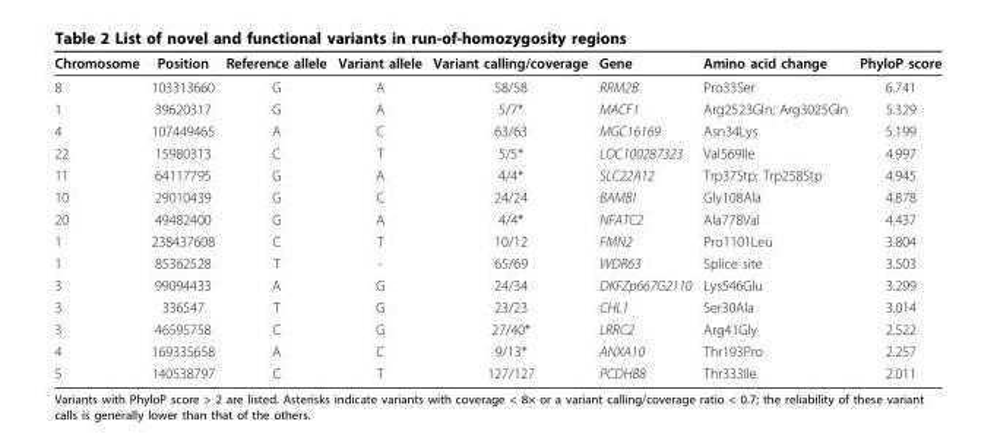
<table><thead><tr><td>Chromosome</td><td>Position</td><td>Reference allele</td><td>Variant allele</td><td>Variant calling/coverage</td><td>Gene</td><td>Amino acid change</td><td>PhyloP score</td></tr></thead><tbody><tr><td>8</td><td>103313660</td><td>G</td><td>A</td><td>58/58</td><td>RRM2B</td><td>Pro33Ser</td><td>6.741</td></tr><tr><td>1</td><td>39620317</td><td>G</td><td>A</td><td>5/7*</td><td>MACF1</td><td>Arg2523Gln; Arg3025Gln</td><td>5.329</td></tr><tr><td>4</td><td>107449465</td><td>A</td><td>C</td><td>63/63</td><td>MGC16169</td><td>Asn34Lys</td><td>5.199</td></tr><tr><td>22</td><td>15980313</td><td>C</td><td>T</td><td>5/5*</td><td>LOC100287323</td><td>Val569Ile</td><td>4.997</td></tr><tr><td>11</td><td>64117795</td><td>G</td><td>A</td><td>4/4*</td><td>SLC22A12</td><td>Trp37Stp; Trp258Stp</td><td>4.945</td></tr><tr><td>10</td><td>29010439</td><td>G</td><td>C</td><td>24/24</td><td>BAMBI</td><td>Gly108Ala</td><td>4.878</td></tr><tr><td>20</td><td>49482400</td><td>G</td><td>A</td><td>4/4*</td><td>NFATC2</td><td>Ala778Val</td><td>4.437</td></tr><tr><td>1</td><td>238437608</td><td>C</td><td>T</td><td>10/12</td><td>FMN2</td><td>Pro1101Leu</td><td>3.804</td></tr><tr><td>1</td><td>85362528</td><td>T</td><td>-</td><td>65/69</td><td>WDR63</td><td>Splice site</td><td>3.503</td></tr><tr><td>3</td><td>99094433</td><td>A</td><td>G</td><td>24/34</td><td>DKFZp667G2110</td><td>Lys546Glu</td><td>3.299</td></tr><tr><td>3</td><td>336547</td><td>T</td><td>G</td><td>23/23</td><td>CHL1</td><td>Ser30Ala</td><td>3.014</td></tr><tr><td>3</td><td>46595758</td><td>C</td><td>G</td><td>27/40*</td><td>LRRC2</td><td>Arg41Gly</td><td>2.522</td></tr><tr><td>4</td><td>169335658</td><td>A</td><td>C</td><td>9/13*</td><td>ANXA10</td><td>Thr193Pro</td><td>2.257</td></tr><tr><td>5</td><td>140538797</td><td>C</td><td>T</td><td>127/127</td><td>PCDHB8</td><td>Thr333Ile</td><td>2.011</td></tr></tbody></table>